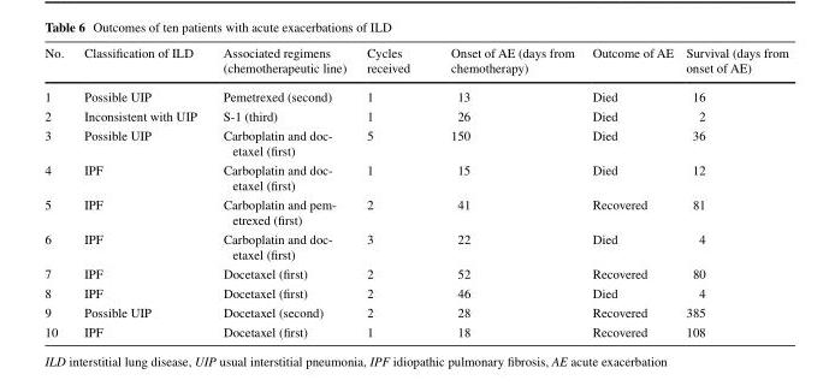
<table><thead><tr><td>No.</td><td>Classification of ILD</td><td>Associated regimens (chemotherapeutic line)</td><td>Cycles received</td><td>Onset of AE (days from chemotherapy)</td><td>Outcome of AE</td><td>Survival (days from onset of AE)</td></tr></thead><tbody><tr><td>1</td><td>Possible UIP</td><td>Pemetrexed (second)</td><td>1</td><td>13</td><td>Died</td><td>16</td></tr><tr><td>2</td><td>Inconsistent with UIP</td><td>S-1 (third)</td><td>1</td><td>26</td><td>Died</td><td>2</td></tr><tr><td>3</td><td>Possible UIP</td><td>Carboplatin and doc- etaxel (first)</td><td>5</td><td>150</td><td>Died</td><td>36</td></tr><tr><td>4</td><td>IPF</td><td>Carboplatin and doc- etaxel (first)</td><td>1</td><td>15</td><td>Died</td><td>12</td></tr><tr><td>5</td><td>IPF</td><td>Carboplatin and pem- etrexed (first)</td><td>2</td><td>41</td><td>Recovered</td><td>81</td></tr><tr><td>6</td><td>IPF</td><td>Carboplatin and doc- etaxel (first)</td><td>3</td><td>22</td><td>Died</td><td>4</td></tr><tr><td>7</td><td>IPF</td><td>Docetaxel (first)</td><td>2</td><td>52</td><td>Recovered</td><td>80</td></tr><tr><td>8</td><td>IPF</td><td>Docetaxel (first)</td><td>2</td><td>46</td><td>Died</td><td>4</td></tr><tr><td>9</td><td>Possible UIP</td><td>Docetaxel (second)</td><td>2</td><td>28</td><td>Recovered</td><td>385</td></tr><tr><td>10</td><td>IPF</td><td>Docetaxel (first)</td><td>1</td><td>18</td><td>Recovered</td><td>108</td></tr></tbody></table>